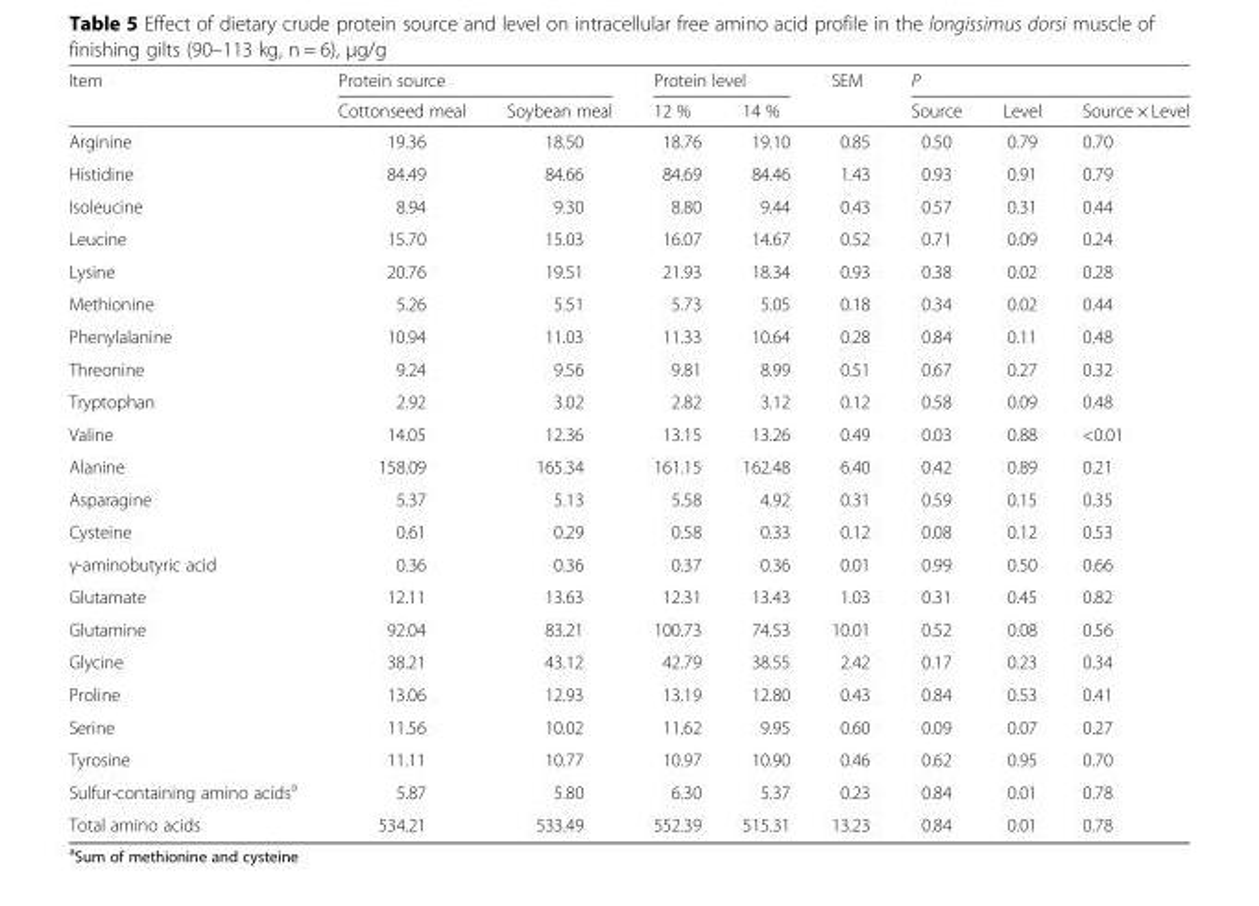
<table><thead><tr><td rowspan="2">Item</td><td colspan="2">Protein source</td><td colspan="2">Protein level</td><td rowspan="2">SEM</td><td colspan="3">P</td></tr><tr><td>Cottonseed meal</td><td>Soybean meal</td><td>12 %</td><td>14 %</td><td>Source</td><td>Level</td><td>Source × Level</td></tr></thead><tbody><tr><td>Arginine</td><td>19.36</td><td>18.50</td><td>18.76</td><td>19.10</td><td>0.85</td><td>0.50</td><td>0.79</td><td>0.70</td></tr><tr><td>Histidine</td><td>84.49</td><td>84.66</td><td>84.69</td><td>84.46</td><td>1.43</td><td>0.93</td><td>0.91</td><td>0.79</td></tr><tr><td>Isoleucine</td><td>8.94</td><td>9.30</td><td>8.80</td><td>9.44</td><td>0.43</td><td>0.57</td><td>0.31</td><td>0.44</td></tr><tr><td>Leucine</td><td>15.70</td><td>15.03</td><td>16.07</td><td>14.67</td><td>0.52</td><td>0.71</td><td>0.09</td><td>0.24</td></tr><tr><td>Lysine</td><td>20.76</td><td>19.51</td><td>21.93</td><td>18.34</td><td>0.93</td><td>0.38</td><td>0.02</td><td>0.28</td></tr><tr><td>Methionine</td><td>5.26</td><td>5.51</td><td>5.73</td><td>5.05</td><td>0.18</td><td>0.34</td><td>0.02</td><td>0.44</td></tr><tr><td>Phenylalanine</td><td>10.94</td><td>11.03</td><td>11.33</td><td>10.64</td><td>0.28</td><td>0.84</td><td>0.11</td><td>0.48</td></tr><tr><td>Threonine</td><td>9.24</td><td>9.56</td><td>9.81</td><td>8.99</td><td>0.51</td><td>0.67</td><td>0.27</td><td>0.32</td></tr><tr><td>Tryptophan</td><td>2.92</td><td>3.02</td><td>2.82</td><td>3.12</td><td>0.12</td><td>0.58</td><td>0.09</td><td>0.48</td></tr><tr><td>Valine</td><td>14.05</td><td>12.36</td><td>13.15</td><td>13.26</td><td>0.49</td><td>0.03</td><td>0.88</td><td>&lt;0.01</td></tr><tr><td>Alanine</td><td>158.09</td><td>165.34</td><td>161.15</td><td>162.48</td><td>6.40</td><td>0.42</td><td>0.89</td><td>0.21</td></tr><tr><td>Asparagine</td><td>5.37</td><td>5.13</td><td>5.58</td><td>4.92</td><td>0.31</td><td>0.59</td><td>0.15</td><td>0.35</td></tr><tr><td>Cysteine</td><td>0.61</td><td>0.29</td><td>0.58</td><td>0.33</td><td>0.12</td><td>0.08</td><td>0.12</td><td>0.53</td></tr><tr><td>γ-aminobutyric acid</td><td>0.36</td><td>0.36</td><td>0.37</td><td>0.36</td><td>0.01</td><td>0.99</td><td>0.50</td><td>0.66</td></tr><tr><td>Glutamate</td><td>12.11</td><td>13.63</td><td>12.31</td><td>13.43</td><td>1.03</td><td>0.31</td><td>0.45</td><td>0.82</td></tr><tr><td>Glutamine</td><td>92.04</td><td>83.21</td><td>100.73</td><td>74.53</td><td>10.01</td><td>0.52</td><td>0.08</td><td>0.56</td></tr><tr><td>Glycine</td><td>38.21</td><td>43.12</td><td>42.79</td><td>38.55</td><td>2.42</td><td>0.17</td><td>0.23</td><td>0.34</td></tr><tr><td>Proline</td><td>13.06</td><td>12.93</td><td>13.19</td><td>12.80</td><td>0.43</td><td>0.84</td><td>0.53</td><td>0.41</td></tr><tr><td>Serine</td><td>11.56</td><td>10.02</td><td>11.62</td><td>9.95</td><td>0.60</td><td>0.09</td><td>0.07</td><td>0.27</td></tr><tr><td>Tyrosine</td><td>11.11</td><td>10.77</td><td>10.97</td><td>10.90</td><td>0.46</td><td>0.62</td><td>0.95</td><td>0.70</td></tr><tr><td>Sulfur-containing amino acids<sup>a</sup></td><td>5.87</td><td>5.80</td><td>6.30</td><td>5.37</td><td>0.23</td><td>0.84</td><td>0.01</td><td>0.78</td></tr><tr><td>Total amino acids</td><td>534.21</td><td>533.49</td><td>552.39</td><td>515.31</td><td>13.23</td><td>0.84</td><td>0.01</td><td>0.78</td></tr></tbody></table>